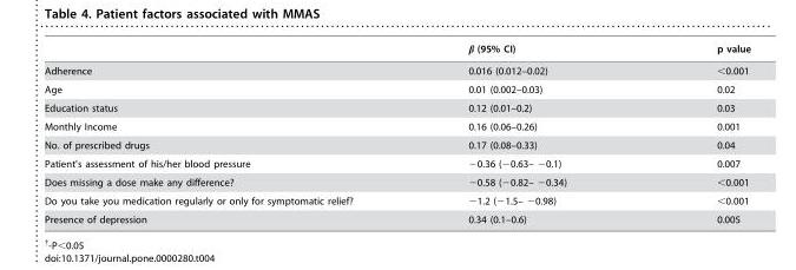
<table><thead><tr><td></td><td>β (95% CI)</td><td>p value</td></tr></thead><tbody><tr><td>Adherence</td><td>0.016 (0.012–0.02)</td><td>&lt;0.001</td></tr><tr><td>Age</td><td>0.01 (0.002–0.03)</td><td>0.02</td></tr><tr><td>Education status</td><td>0.12 (0.01–0.2)</td><td>0.03</td></tr><tr><td>Monthly Income</td><td>0.16 (0.06–0.26)</td><td>0.001</td></tr><tr><td>No. of prescribed drugs</td><td>0.17 (0.08–0.33)</td><td>0.04</td></tr><tr><td>Patient’s assessment of his/her blood pressure</td><td>−0.36 (−0.63– −0.1)</td><td>0.007</td></tr><tr><td>Does missing a dose make any difference?</td><td>−0.58 (−0.82– −0.34)</td><td>&lt;0.001</td></tr><tr><td>Do you take you medication regularly or only for symptomatic relief?</td><td>−1.2 (−1.5– −0.98)</td><td>&lt;0.001</td></tr><tr><td>Presence of depression</td><td>0.34 (0.1–0.6)</td><td>0.005</td></tr></tbody></table>